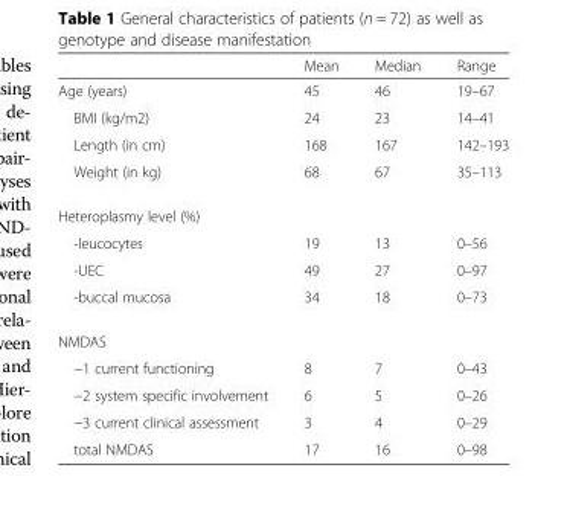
<table><thead><tr><td></td><td>Mean</td><td>Median</td><td>Range</td></tr></thead><tbody><tr><td>Age (years)</td><td>45</td><td>46</td><td>19–67</td></tr><tr><td>BMI (kg/m2)</td><td>24</td><td>23</td><td>14–41</td></tr><tr><td>Length (in cm)</td><td>168</td><td>167</td><td>142–193</td></tr><tr><td>Weight (in kg)</td><td>68</td><td>67</td><td>35–113</td></tr><tr><td colspan="4">Heteroplasmy level (%)</td></tr><tr><td>-leucocytes</td><td>19</td><td>13</td><td>0–56</td></tr><tr><td>-UEC</td><td>49</td><td>27</td><td>0–97</td></tr><tr><td>-buccal mucosa</td><td>34</td><td>18</td><td>0–73</td></tr><tr><td colspan="4">NMDAS</td></tr><tr><td>−1 current functioning</td><td>8</td><td>7</td><td>0–43</td></tr><tr><td>−2 system specific involvement</td><td>6</td><td>5</td><td>0–26</td></tr><tr><td>−3 current clinical assessment</td><td>3</td><td>4</td><td>0–29</td></tr><tr><td>total NMDAS</td><td>17</td><td>16</td><td>0–98</td></tr></tbody></table>